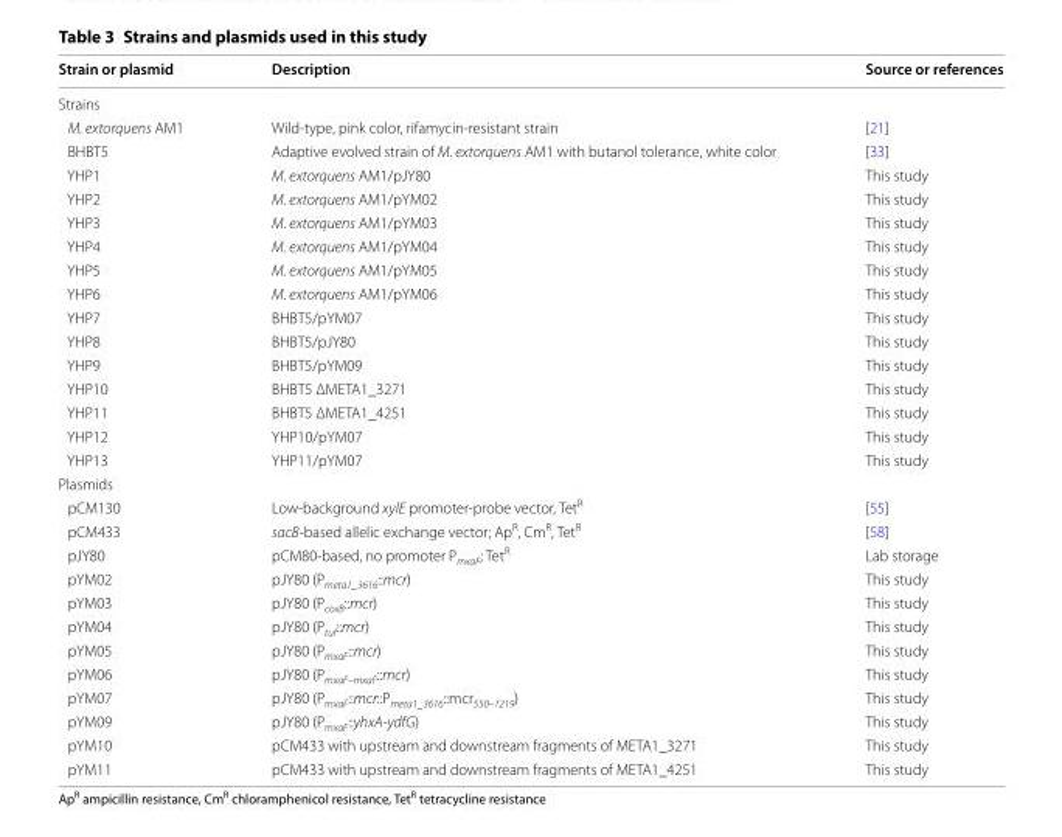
<table><thead><tr><td>Strain or plasmid</td><td>Description</td><td>Source or references</td></tr></thead><tbody><tr><td colspan="3">Strains</td></tr><tr><td>M. extorquens AM1</td><td>Wild‑type, pink color, rifamycin‑resistant strain</td><td>[21]</td></tr><tr><td>BHBT5</td><td>Adaptive evolved strain of M. extorquens AM1 with butanol tolerance, white color</td><td>[33]</td></tr><tr><td>YHP1</td><td>M. extorquens AM1/pJY80</td><td>This study</td></tr><tr><td>YHP2</td><td>M. extorquens AM1/pYM02</td><td>This study</td></tr><tr><td>YHP3</td><td>M. extorquens AM1/pYM03</td><td>This study</td></tr><tr><td>YHP4</td><td>M. extorquens AM1/pYM04</td><td>This study</td></tr><tr><td>YHP5</td><td>M. extorquens AM1/pYM05</td><td>This study</td></tr><tr><td>YHP6</td><td>M. extorquens AM1/pYM06</td><td>This study</td></tr><tr><td>YHP7</td><td>BHBT5/pYM07</td><td>This study</td></tr><tr><td>YHP8</td><td>BHBT5/pJY80</td><td>This study</td></tr><tr><td>YHP9</td><td>BHBT5/pYM09</td><td>This study</td></tr><tr><td>YHP10</td><td>BHBT5 ΔMETA1_3271</td><td>This study</td></tr><tr><td>YHP11</td><td>BHBT5 ΔMETA1_4251</td><td>This study</td></tr><tr><td>YHP12</td><td>YHP10/pYM07</td><td>This study</td></tr><tr><td>YHP13</td><td>YHP11/pYM07</td><td>This study</td></tr><tr><td colspan="3">Plasmids</td></tr><tr><td>pCM130</td><td>Low‑background xylE promoter‑probe vector, Tet<sup>R</sup></td><td>[55]</td></tr><tr><td>pCM433</td><td>sacB‑based allelic exchange vector; Ap<sup>R</sup>, Cm<sup>R</sup>, Tet<sup>R</sup></td><td>[58]</td></tr><tr><td>pJY80</td><td>pCM80‑based, no promoter P<sub>mxaF</sub>; Tet<sup>R</sup></td><td>Lab storage</td></tr><tr><td>pYM02</td><td>pJY80 (P<sub>meta1_3616</sub>::mcr)</td><td>This study</td></tr><tr><td>pYM03</td><td>pJY80 (P<sub>coxB</sub>::mcr)</td><td>This study</td></tr><tr><td>pYM04</td><td>pJY80 (P<sub>tuf</sub>::mcr)</td><td>This study</td></tr><tr><td>pYM05</td><td>pJY80 (P<sub>mxaF</sub>::mcr)</td><td>This study</td></tr><tr><td>pYM06</td><td>pJY80 (P<sub>mxaF–mxaF</sub>::mcr)</td><td>This study</td></tr><tr><td>pYM07</td><td>pJY80 (P<sub>mxaF</sub>::mcr::P<sub>meta1_3616</sub>::mcr<sub>550–1219</sub>)</td><td>This study</td></tr><tr><td>pYM09</td><td>pJY80 (P<sub>mxaF</sub>::yhxA-ydfG)</td><td>This study</td></tr><tr><td>pYM10</td><td>pCM433 with upstream and downstream fragments of META1_3271</td><td>This study</td></tr><tr><td>pYM11</td><td>pCM433 with upstream and downstream fragments of META1_4251</td><td>This study</td></tr></tbody></table>